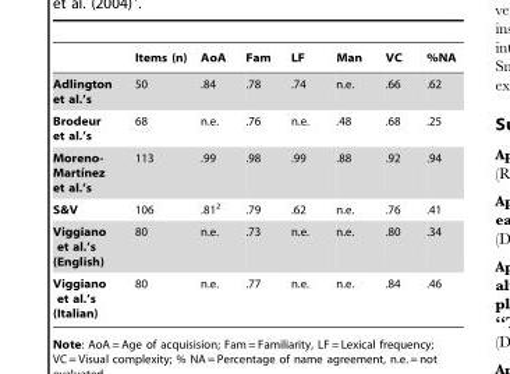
<table><thead><tr><td></td><td>Items (n)</td><td>AoA</td><td>Fam</td><td>LF</td><td>Man</td><td>VC</td><td>%NA</td></tr></thead><tbody><tr><td>Adlington et al.’s</td><td>50</td><td>.84</td><td>.78</td><td>.74</td><td>n.e.</td><td>.66</td><td>.62</td></tr><tr><td>Brodeur et al.’s</td><td>68</td><td>n.e.</td><td>.76</td><td>n.e.</td><td>.48</td><td>.68</td><td>.25</td></tr><tr><td>Moreno- Martı´nez et al.’s</td><td>113</td><td>.99</td><td>.98</td><td>.99</td><td>.88</td><td>.92</td><td>.94</td></tr><tr><td>S&amp;V</td><td>106</td><td>.81<sup>2</sup></td><td>.79</td><td>.62</td><td>n.e.</td><td>.76</td><td>.41</td></tr><tr><td>Viggiano et al.’s (English)</td><td>80</td><td>n.e.</td><td>.73</td><td>n.e.</td><td>n.e.</td><td>.80</td><td>.34</td></tr><tr><td>Viggiano et al.’s (Italian)</td><td>80</td><td>n.e.</td><td>.77</td><td>n.e.</td><td>n.e.</td><td>.84</td><td>.46</td></tr></tbody></table>